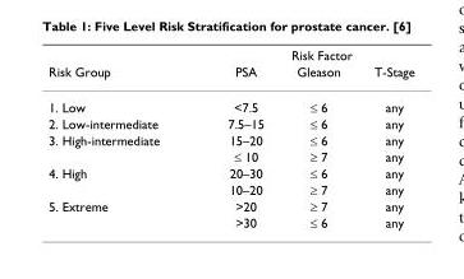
<table><thead><tr><td rowspan="2">Risk Group</td><td colspan="3">Risk Factor</td></tr><tr><td>PSA</td><td>Gleason</td><td>T-Stage</td></tr></thead><tbody><tr><td>1. Low</td><td>&lt;7.5</td><td>≤ 6</td><td>any</td></tr><tr><td>2. Low-intermediate</td><td>7.5–15</td><td>≤ 6</td><td>any</td></tr><tr><td rowspan="2">3. High-intermediate</td><td>15–20</td><td>≤ 6</td><td>any</td></tr><tr><td>≤ 10</td><td>≥ 7</td><td>any</td></tr><tr><td rowspan="2">4. High</td><td>20–30</td><td>≤ 6</td><td>any</td></tr><tr><td>10–20</td><td>≥ 7</td><td>any</td></tr><tr><td rowspan="2">5. Extreme</td><td>&gt;20</td><td>≥ 7</td><td>any</td></tr><tr><td>&gt;30</td><td>≤ 6</td><td>any</td></tr></tbody></table>